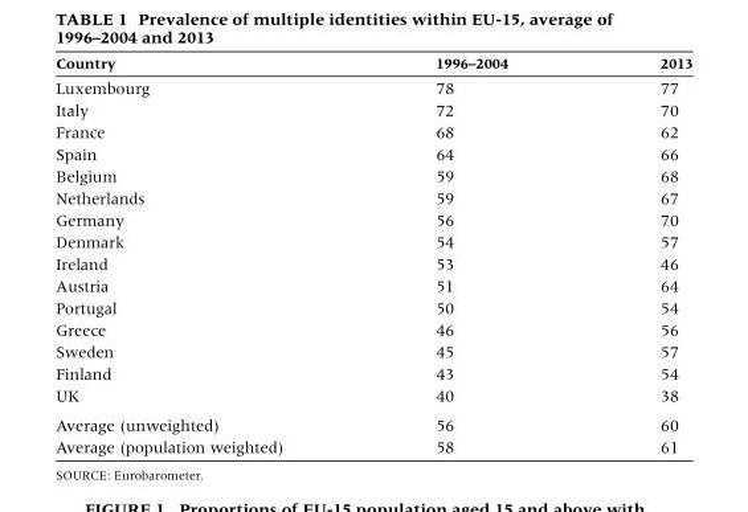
<table><thead><tr><td>Country</td><td>1996–2004</td><td>2013</td></tr></thead><tbody><tr><td>Luxembourg</td><td>78</td><td>77</td></tr><tr><td>Italy</td><td>72</td><td>70</td></tr><tr><td>France</td><td>68</td><td>62</td></tr><tr><td>Spain</td><td>64</td><td>66</td></tr><tr><td>Belgium</td><td>59</td><td>68</td></tr><tr><td>Netherlands</td><td>59</td><td>67</td></tr><tr><td>Germany</td><td>56</td><td>70</td></tr><tr><td>Denmark</td><td>54</td><td>57</td></tr><tr><td>Ireland</td><td>53</td><td>46</td></tr><tr><td>Austria</td><td>51</td><td>64</td></tr><tr><td>Portugal</td><td>50</td><td>54</td></tr><tr><td>Greece</td><td>46</td><td>56</td></tr><tr><td>Sweden</td><td>45</td><td>57</td></tr><tr><td>Finland</td><td>43</td><td>54</td></tr><tr><td>UK</td><td>40</td><td>38</td></tr><tr><td>Average (unweighted)</td><td>56</td><td>60</td></tr><tr><td>Average (population weighted)</td><td>58</td><td>61</td></tr></tbody></table>